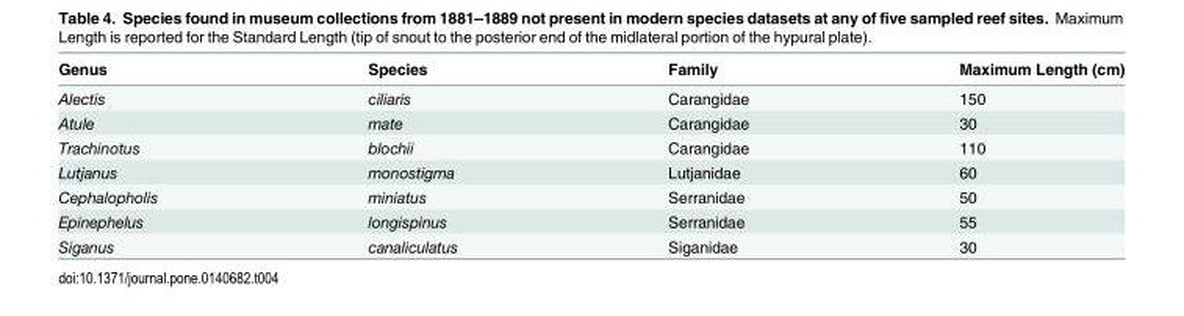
<table><thead><tr><td>Genus</td><td>Species</td><td>Family</td><td>Maximum Length (cm)</td></tr></thead><tbody><tr><td>Alectis</td><td>ciliaris</td><td>Carangidae</td><td>150</td></tr><tr><td>Atule</td><td>mate</td><td>Carangidae</td><td>30</td></tr><tr><td>Trachinotus</td><td>blochii</td><td>Carangidae</td><td>110</td></tr><tr><td>Lutjanus</td><td>monostigma</td><td>Lutjanidae</td><td>60</td></tr><tr><td>Cephalopholis</td><td>miniatus</td><td>Serranidae</td><td>50</td></tr><tr><td>Epinephelus</td><td>longispinus</td><td>Serranidae</td><td>55</td></tr><tr><td>Siganus</td><td>canaliculatus</td><td>Siganidae</td><td>30</td></tr></tbody></table>